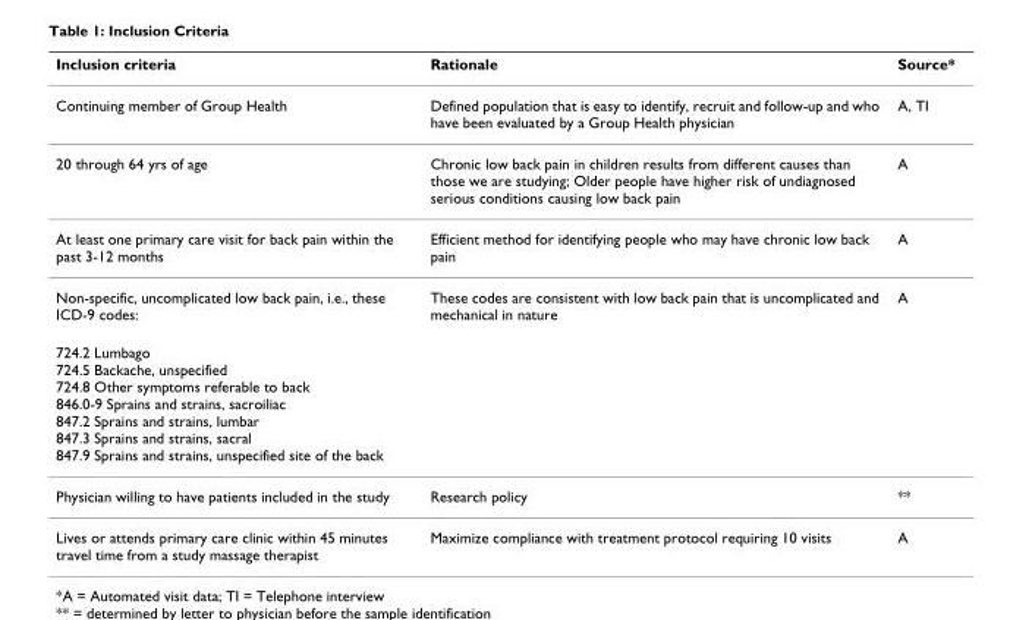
<table><thead><tr><td>Inclusion criteria</td><td>Rationale</td><td>Source*</td></tr></thead><tbody><tr><td>Continuing member of Group Health</td><td>Defined population that is easy to identify, recruit and follow-up and who have been evaluated by a Group Health physician</td><td>A, TI</td></tr><tr><td>20 through 64 yrs of age</td><td>Chronic low back pain in children results from different causes than those we are studying; Older people have higher risk of undiagnosed serious conditions causing low back pain</td><td>A</td></tr><tr><td>At least one primary care visit for back pain within the past 3-12 months</td><td>Efficient method for identifying people who may have chronic low back pain</td><td>A</td></tr><tr><td>Non-specific, uncomplicated low back pain, i.e., these ICD-9 codes:</td><td>These codes are consistent with low back pain that is uncomplicated and mechanical in nature</td><td>A</td></tr><tr><td colspan="3">724.2 Lumbago 724.5 Backache, unspecified 724.8 Other symptoms referable to back 846.0-9 Sprains and strains, sacroiliac 847.2 Sprains and strains, lumbar 847.3 Sprains and strains, sacral 847.9 Sprains and strains, unspecified site of the back</td></tr><tr><td>Physician willing to have patients included in the study</td><td>Research policy</td><td>**</td></tr><tr><td>Lives or attends primary care clinic within 45 minutes travel time from a study massage therapist</td><td>Maximize compliance with treatment protocol requiring 10 visits</td><td>A</td></tr></tbody></table>